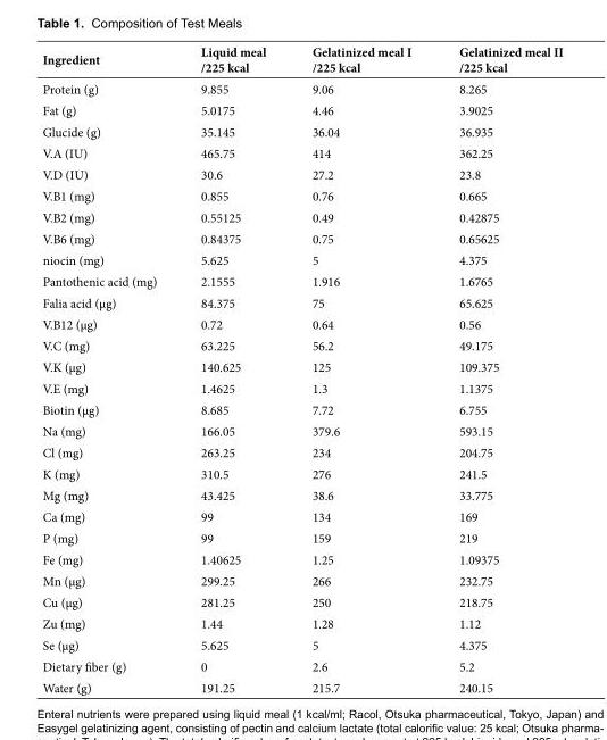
<table><thead><tr><td>Ingredient</td><td>Liquid meal /225 kcal</td><td>Gelatinized meal I /225 kcal</td><td>Gelatinized meal II /225 kcal</td></tr></thead><tbody><tr><td>Protein (g)</td><td>9.855</td><td>9.06</td><td>8.265</td></tr><tr><td>Fat (g)</td><td>5.0175</td><td>4.46</td><td>3.9025</td></tr><tr><td>Glucide (g)</td><td>35.145</td><td>36.04</td><td>36.935</td></tr><tr><td>V.A (IU)</td><td>465.75</td><td>414</td><td>362.25</td></tr><tr><td>V.D (IU)</td><td>30.6</td><td>27.2</td><td>23.8</td></tr><tr><td>V.B1 (mg)</td><td>0.855</td><td>0.76</td><td>0.665</td></tr><tr><td>V.B2 (mg)</td><td>0.55125</td><td>0.49</td><td>0.42875</td></tr><tr><td>V.B6 (mg)</td><td>0.84375</td><td>0.75</td><td>0.65625</td></tr><tr><td>niocin (mg)</td><td>5.625</td><td>5</td><td>4.375</td></tr><tr><td>Pantothenic acid (mg)</td><td>2.1555</td><td>1.916</td><td>1.6765</td></tr><tr><td>Falia acid (µg)</td><td>84.375</td><td>75</td><td>65.625</td></tr><tr><td>V.B12 (µg)</td><td>0.72</td><td>0.64</td><td>0.56</td></tr><tr><td>V.C (mg)</td><td>63.225</td><td>56.2</td><td>49.175</td></tr><tr><td>V.K (µg)</td><td>140.625</td><td>125</td><td>109.375</td></tr><tr><td>V.E (mg)</td><td>1.4625</td><td>1.3</td><td>1.1375</td></tr><tr><td>Biotin (µg)</td><td>8.685</td><td>7.72</td><td>6.755</td></tr><tr><td>Na (mg)</td><td>166.05</td><td>379.6</td><td>593.15</td></tr><tr><td>Cl (mg)</td><td>263.25</td><td>234</td><td>204.75</td></tr><tr><td>K (mg)</td><td>310.5</td><td>276</td><td>241.5</td></tr><tr><td>Mg (mg)</td><td>43.425</td><td>38.6</td><td>33.775</td></tr><tr><td>Ca (mg)</td><td>99</td><td>134</td><td>169</td></tr><tr><td>P (mg)</td><td>99</td><td>159</td><td>219</td></tr><tr><td>Fe (mg)</td><td>1.40625</td><td>1.25</td><td>1.09375</td></tr><tr><td>Mn (µg)</td><td>299.25</td><td>266</td><td>232.75</td></tr><tr><td>Cu (µg)</td><td>281.25</td><td>250</td><td>218.75</td></tr><tr><td>Zu (mg)</td><td>1.44</td><td>1.28</td><td>1.12</td></tr><tr><td>Se (µg)</td><td>5.625</td><td>5</td><td>4.375</td></tr><tr><td>Dietary fiber (g)</td><td>0</td><td>2.6</td><td>5.2</td></tr><tr><td>Water (g)</td><td>191.25</td><td>215.7</td><td>240.15</td></tr></tbody></table>